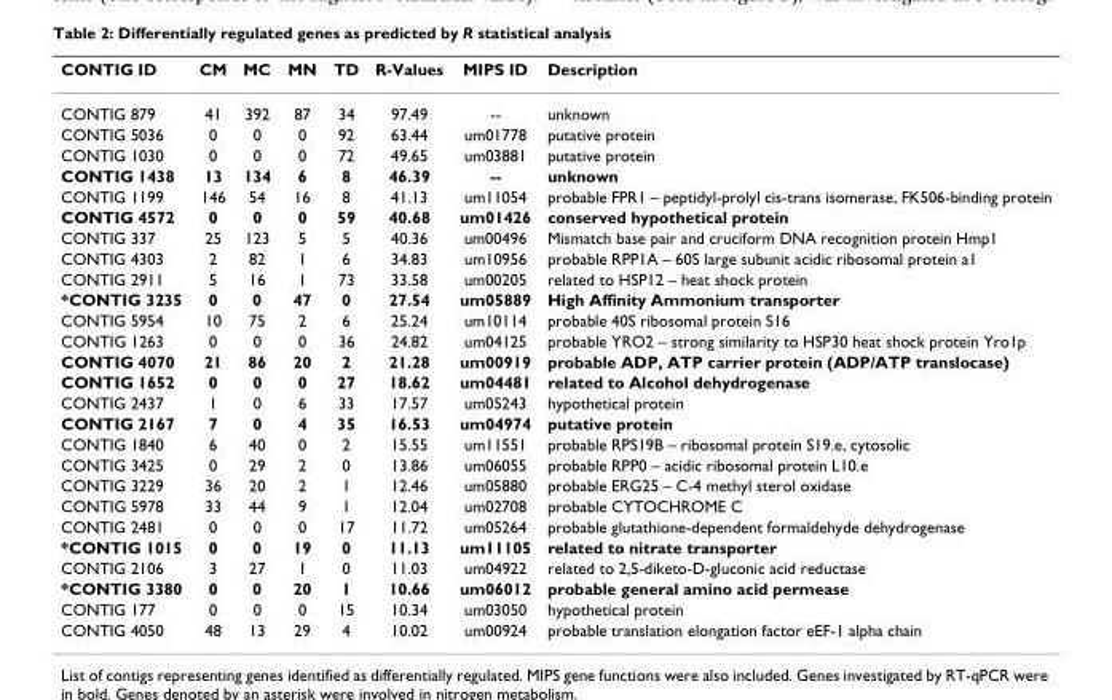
<table><thead><tr><td>CONTIG ID</td><td>CM</td><td>MC</td><td>MN</td><td>TD</td><td>R-Values</td><td>MIPS ID</td><td>Description</td></tr></thead><tbody><tr><td>CONTIG 879</td><td>41</td><td>392</td><td>87</td><td>34</td><td>97.49</td><td>--</td><td>unknown</td></tr><tr><td>CONTIG 5036</td><td>0</td><td>0</td><td>0</td><td>92</td><td>63.44</td><td>um01778</td><td>putative protein</td></tr><tr><td>CONTIG 1030</td><td>0</td><td>0</td><td>0</td><td>72</td><td>49.65</td><td>um03881</td><td>putative protein</td></tr><tr><td>CONTIG 1438</td><td>13</td><td>134</td><td>6</td><td>8</td><td>46.39</td><td>--</td><td>unknown</td></tr><tr><td>CONTIG 1199</td><td>146</td><td>54</td><td>16</td><td>8</td><td>41.13</td><td>um11054</td><td>probable FPR1 – peptidyl-prolyl cis-trans isomerase, FK506-binding protein</td></tr><tr><td>CONTIG 4572</td><td>0</td><td>0</td><td>0</td><td>59</td><td>40.68</td><td>um01426</td><td>conserved hypothetical protein</td></tr><tr><td>CONTIG 337</td><td>25</td><td>123</td><td>5</td><td>5</td><td>40.36</td><td>um00496</td><td>Mismatch base pair and cruciform DNA recognition protein Hmp1</td></tr><tr><td>CONTIG 4303</td><td>2</td><td>82</td><td>1</td><td>6</td><td>34.83</td><td>um10956</td><td>probable RPP1A – 60S large subunit acidic ribosomal protein a1</td></tr><tr><td>CONTIG 2911</td><td>5</td><td>16</td><td>1</td><td>73</td><td>33.58</td><td>um00205</td><td>related to HSP12 – heat shock protein</td></tr><tr><td>*CONTIG 3235</td><td>0</td><td>0</td><td>47</td><td>0</td><td>27.54</td><td>um05889</td><td>High Affinity Ammonium transporter</td></tr><tr><td>CONTIG 5954</td><td>10</td><td>75</td><td>2</td><td>6</td><td>25.24</td><td>um10114</td><td>probable 40S ribosomal protein S16</td></tr><tr><td>CONTIG 1263</td><td>0</td><td>0</td><td>0</td><td>36</td><td>24.82</td><td>um04125</td><td>probable YRO2 – strong similarity to HSP30 heat shock protein Yro1p</td></tr><tr><td>CONTIG 4070</td><td>21</td><td>86</td><td>20</td><td>2</td><td>21.28</td><td>um00919</td><td>probable ADP, ATP carrier protein (ADP/ATP translocase)</td></tr><tr><td>CONTIG 1652</td><td>0</td><td>0</td><td>0</td><td>27</td><td>18.62</td><td>um04481</td><td>related to Alcohol dehydrogenase</td></tr><tr><td>CONTIG 2437</td><td>1</td><td>0</td><td>6</td><td>33</td><td>17.57</td><td>um05243</td><td>hypothetical protein</td></tr><tr><td>CONTIG 2167</td><td>7</td><td>0</td><td>4</td><td>35</td><td>16.53</td><td>um04974</td><td>putative protein</td></tr><tr><td>CONTIG 1840</td><td>6</td><td>40</td><td>0</td><td>2</td><td>15.55</td><td>um11551</td><td>probable RPS19B – ribosomal protein S19.e, cytosolic</td></tr><tr><td>CONTIG 3425</td><td>0</td><td>29</td><td>2</td><td>0</td><td>13.86</td><td>um06055</td><td>probable RPP0 – acidic ribosomal protein L10.e</td></tr><tr><td>CONTIG 3229</td><td>36</td><td>20</td><td>2</td><td>1</td><td>12.46</td><td>um05880</td><td>probable ERG25 – C-4 methyl sterol oxidase</td></tr><tr><td>CONTIG 5978</td><td>33</td><td>44</td><td>9</td><td>1</td><td>12.04</td><td>um02708</td><td>probable CYTOCHROME C</td></tr><tr><td>CONTIG 2481</td><td>0</td><td>0</td><td>0</td><td>17</td><td>11.72</td><td>um05264</td><td>probable glutathione-dependent formaldehyde dehydrogenase</td></tr><tr><td>*CONTIG 1015</td><td>0</td><td>0</td><td>19</td><td>0</td><td>11.13</td><td>um11105</td><td>related to nitrate transporter</td></tr><tr><td>CONTIG 2106</td><td>3</td><td>27</td><td>1</td><td>0</td><td>11.03</td><td>um04922</td><td>related to 2,5-diketo-D-gluconic acid reductase</td></tr><tr><td>*CONTIG 3380</td><td>0</td><td>0</td><td>20</td><td>1</td><td>10.66</td><td>um06012</td><td>probable general amino acid permease</td></tr><tr><td>CONTIG 177</td><td>0</td><td>0</td><td>0</td><td>15</td><td>10.34</td><td>um03050</td><td>hypothetical protein</td></tr><tr><td>CONTIG 4050</td><td>48</td><td>13</td><td>29</td><td>4</td><td>10.02</td><td>um00924</td><td>probable translation elongation factor eEF-1 alpha chain</td></tr></tbody></table>